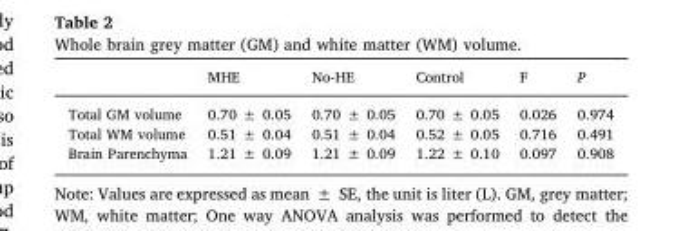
<table><thead><tr><td></td><td>MHE</td><td>No-HE</td><td>Control</td><td>F</td><td>P</td></tr></thead><tbody><tr><td>Total GM volume</td><td>0.70 ± 0.05</td><td>0.70 ± 0.05</td><td>0.70 ± 0.05</td><td>0.026</td><td>0.974</td></tr><tr><td>Total WM volume</td><td>0.51 ± 0.04</td><td>0.51 ± 0.04</td><td>0.52 ± 0.05</td><td>0.716</td><td>0.491</td></tr><tr><td>Brain Parenchyma</td><td>1.21 ± 0.09</td><td>1.21 ± 0.09</td><td>1.22 ± 0.10</td><td>0.097</td><td>0.908</td></tr></tbody></table>